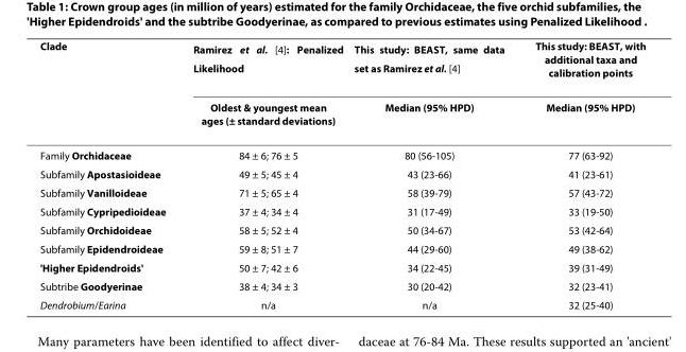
<table><thead><tr><td rowspan="2">Clade</td><td rowspan="2">Ramirez et al. [4]: Penalized Likelihood Oldest &amp; youngest mean ages (± standard deviations)</td><td rowspan="2">This study: BEAST, same data set as Ramirez et al. [4] Median (95% HPD)</td><td rowspan="2">This study: BEAST, with additional taxa and calibration points Median (95% HPD)</td></tr><tr></tr></thead><tbody><tr><td>Family Orchidaceae</td><td>84 ± 6; 76 ± 5</td><td>80 (56-105)</td><td>77 (63-92)</td></tr><tr><td>Subfamily Apostasioideae</td><td>49 ± 5; 45 ± 4</td><td>43 (23-66)</td><td>41 (23-61)</td></tr><tr><td>Subfamily Vanilloideae</td><td>71 ± 5; 65 ± 4</td><td>58 (39-79)</td><td>57 (43-72)</td></tr><tr><td>Subfamily Cypripedioideae</td><td>37 ± 4; 34 ± 4</td><td>31 (17-49)</td><td>33 (19-50)</td></tr><tr><td>Subfamily Orchidoideae</td><td>58 ± 5; 52 ± 4</td><td>50 (34-67)</td><td>53 (42-64)</td></tr><tr><td>Subfamily Epidendroideae</td><td>59 ± 8; 51 ± 7</td><td>44 (29-60)</td><td>49 (38-62)</td></tr><tr><td>&#x27;Higher Epidendroids&#x27;</td><td>50 ± 7; 42 ± 6</td><td>34 (22-45)</td><td>39 (31-49)</td></tr><tr><td>Subtribe Goodyerinae</td><td>38 ± 4; 34 ± 3</td><td>30 (20-42)</td><td>32 (23-41)</td></tr><tr><td>Dendrobium/Earina</td><td>n/a</td><td>n/a</td><td>32 (25-40)</td></tr></tbody></table>